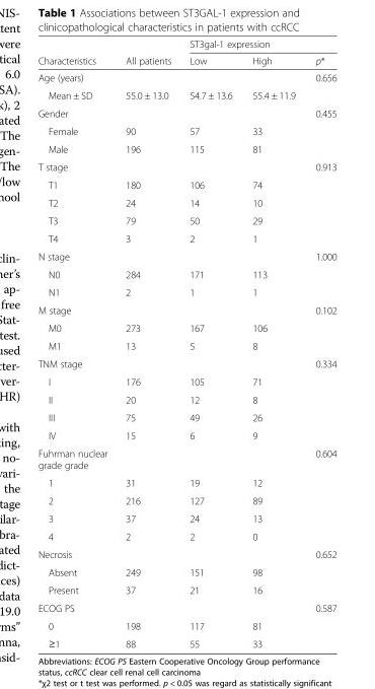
<table><thead><tr><td rowspan="2">Characteristics</td><td rowspan="2">All patients</td><td colspan="3">ST3gal-1 expression</td></tr><tr><td>Low</td><td>High</td><td>p*</td></tr></thead><tbody><tr><td>Age (years)</td><td></td><td></td><td></td><td>0.656</td></tr><tr><td>Mean ± SD</td><td>55.0 ± 13.0</td><td>54.7 ± 13.6</td><td>55.4 ± 11.9</td><td></td></tr><tr><td>Gender</td><td></td><td></td><td></td><td>0.455</td></tr><tr><td>Female</td><td>90</td><td>57</td><td>33</td><td></td></tr><tr><td>Male</td><td>196</td><td>115</td><td>81</td><td></td></tr><tr><td>T stage</td><td></td><td></td><td></td><td>0.913</td></tr><tr><td>T1</td><td>180</td><td>106</td><td>74</td><td></td></tr><tr><td>T2</td><td>24</td><td>14</td><td>10</td><td></td></tr><tr><td>T3</td><td>79</td><td>50</td><td>29</td><td></td></tr><tr><td>T4</td><td>3</td><td>2</td><td>1</td><td></td></tr><tr><td>N stage</td><td></td><td></td><td></td><td>1.000</td></tr><tr><td>N0</td><td>284</td><td>171</td><td>113</td><td></td></tr><tr><td>N1</td><td>2</td><td>1</td><td>1</td><td></td></tr><tr><td>M stage</td><td></td><td></td><td></td><td>0.102</td></tr><tr><td>M0</td><td>273</td><td>167</td><td>106</td><td></td></tr><tr><td>M1</td><td>13</td><td>5</td><td>8</td><td></td></tr><tr><td>TNM stage</td><td></td><td></td><td></td><td>0.334</td></tr><tr><td>I</td><td>176</td><td>105</td><td>71</td><td></td></tr><tr><td>II</td><td>20</td><td>12</td><td>8</td><td></td></tr><tr><td>III</td><td>75</td><td>49</td><td>26</td><td></td></tr><tr><td>IV</td><td>15</td><td>6</td><td>9</td><td></td></tr><tr><td>Fuhrman nuclear grade grade</td><td></td><td></td><td></td><td>0.604</td></tr><tr><td>1</td><td>31</td><td>19</td><td>12</td><td></td></tr><tr><td>2</td><td>216</td><td>127</td><td>89</td><td></td></tr><tr><td>3</td><td>37</td><td>24</td><td>13</td><td></td></tr><tr><td>4</td><td>2</td><td>2</td><td>0</td><td></td></tr><tr><td>Necrosis</td><td></td><td></td><td></td><td>0.652</td></tr><tr><td>Absent</td><td>249</td><td>151</td><td>98</td><td></td></tr><tr><td>Present</td><td>37</td><td>21</td><td>16</td><td></td></tr><tr><td>ECOG PS</td><td></td><td></td><td></td><td>0.587</td></tr><tr><td>0</td><td>198</td><td>117</td><td>81</td><td></td></tr><tr><td>≥1</td><td>88</td><td>55</td><td>33</td><td></td></tr></tbody></table>